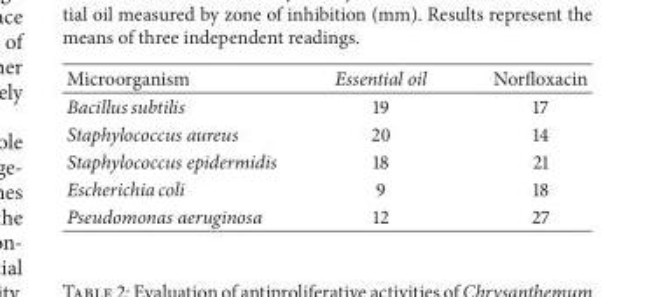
<table><thead><tr><td>Microorganism</td><td>Essential oil</td><td>Norfloxacin</td></tr></thead><tbody><tr><td>Bacillus subtilis</td><td>19</td><td>17</td></tr><tr><td>Staphylococcus aureus</td><td>20</td><td>14</td></tr><tr><td>Staphylococcus epidermidis</td><td>18</td><td>21</td></tr><tr><td>Escherichia coli</td><td>9</td><td>18</td></tr><tr><td>Pseudomonas aeruginosa</td><td>12</td><td>27</td></tr></tbody></table>